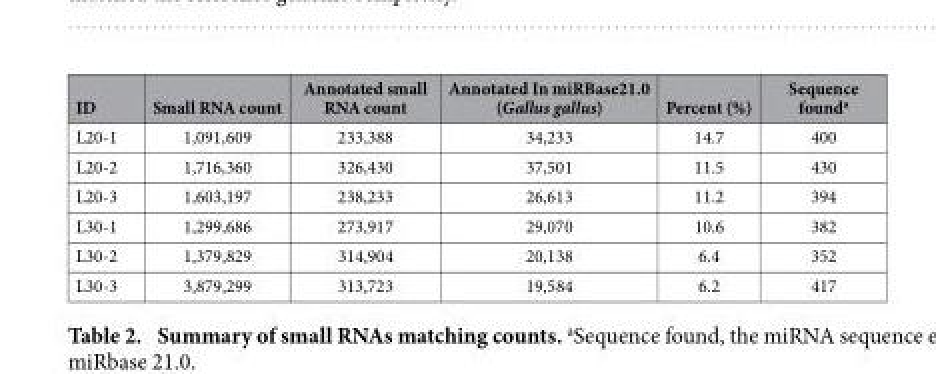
<table><thead><tr><td>ID</td><td>Small RNA count</td><td>Annotated small RNA count</td><td>Annotated In miRBase21.0 (Gallus gallus)</td><td>Percent (%)</td><td>Sequence found<sup>a</sup></td></tr></thead><tbody><tr><td>L20-1</td><td>1,091,609</td><td>233,388</td><td>34,233</td><td>14.7</td><td>400</td></tr><tr><td>L20-2</td><td>1,716,360</td><td>326,430</td><td>37,501</td><td>11.5</td><td>430</td></tr><tr><td>L20-3</td><td>1,603,197</td><td>238,233</td><td>26,613</td><td>11.2</td><td>394</td></tr><tr><td>L30-1</td><td>1,299,686</td><td>273,917</td><td>29,070</td><td>10.6</td><td>382</td></tr><tr><td>L30-2</td><td>1,379,829</td><td>314,904</td><td>20,138</td><td>6.4</td><td>352</td></tr><tr><td>L30-3</td><td>3,879,299</td><td>313,723</td><td>19,584</td><td>6.2</td><td>417</td></tr></tbody></table>